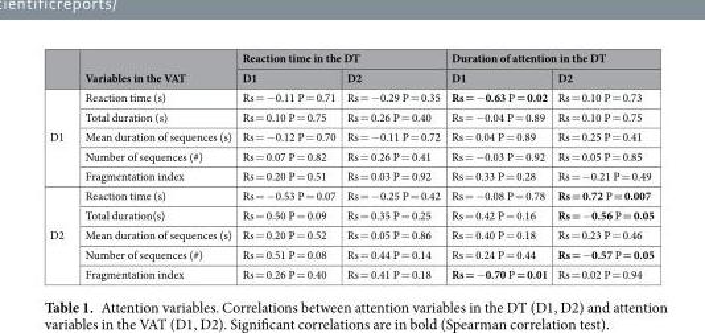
<table><thead><tr><td rowspan="2"></td><td rowspan="2">Variables in the VAT</td><td colspan="2">Reaction time in the DT</td><td colspan="2">Duration of attention in the DT</td></tr><tr><td>D1</td><td>D2</td><td>D1</td><td>D2</td></tr></thead><tbody><tr><td rowspan="5">D1</td><td>Reaction time (s)</td><td>Rs = −0.11 P = 0.71</td><td>Rs = −0.29 P = 0.35</td><td>Rs = −0.63 P = 0.02</td><td>Rs = 0.10 P = 0.73</td></tr><tr><td>Total duration (s)</td><td>Rs = 0.10 P = 0.75</td><td>Rs = 0.26 P = 0.40</td><td>Rs = −0.04 P = 0.89</td><td>Rs = 0.10 P = 0.75</td></tr><tr><td>Mean duration of sequences (s)</td><td>Rs = −0.12 P = 0.70</td><td>Rs = −0.11 P = 0.72</td><td>Rs = 0.04 P = 0.89</td><td>Rs = 0.25 P = 0.41</td></tr><tr><td>Number of sequences (#)</td><td>Rs = 0.07 P = 0.82</td><td>Rs = 0.26 P = 0.41</td><td>Rs = −0.03 P = 0.92</td><td>Rs = 0.05 P = 0.85</td></tr><tr><td>Fragmentation index</td><td>Rs = 0.20 P = 0.51</td><td>Rs = 0.03 P = 0.92</td><td>Rs = 0.33 P = 0.28</td><td>Rs = −0.21 P = 0.49</td></tr><tr><td rowspan="5">D2</td><td>Reaction time (s)</td><td>Rs = −0.53 P = 0.07</td><td>Rs = −0.25 P = 0.42</td><td>Rs = −0.08 P = 0.78</td><td>Rs = 0.72 P = 0.007</td></tr><tr><td>Total duration(s)</td><td>Rs = 0.50 P = 0.09</td><td>Rs = 0.35 P = 0.25</td><td>Rs = 0.42 P = 0.16</td><td>Rs = −0.56 P = 0.05</td></tr><tr><td>Mean duration of sequences (s)</td><td>Rs = 0.20 P = 0.52</td><td>Rs = 0.05 P = 0.86</td><td>Rs = 0.40 P = 0.18</td><td>Rs = 0.23 P = 0.46</td></tr><tr><td>Number of sequences (#)</td><td>Rs = 0.51 P = 0.08</td><td>Rs = 0.44 P = 0.14</td><td>Rs = 0.24 P = 0.44</td><td>Rs = −0.57 P = 0.05</td></tr><tr><td>Fragmentation index</td><td>Rs = 0.26 P = 0.40</td><td>Rs = 0.41 P = 0.18</td><td>Rs = −0.70 P = 0.01</td><td>Rs = 0.02 P = 0.94</td></tr></tbody></table>